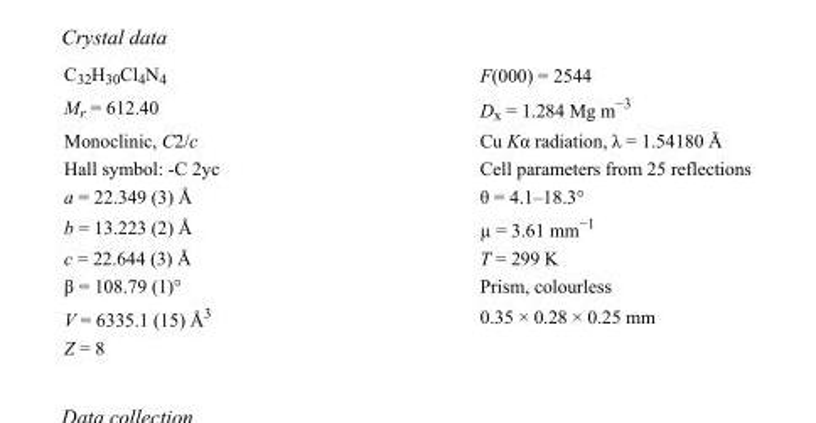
<table><tbody><tr><td>C<sub>32</sub>H<sub>30</sub>Cl<sub>4</sub>N<sub>4</sub></td><td>F(000) = 2544</td></tr><tr><td>M<sub>r</sub> = 612.40</td><td>D<sub>x</sub> = 1.284 Mg m<sup>−3</sup></td></tr><tr><td>Monoclinic, C2/c</td><td>Cu Kα radiation, λ = 1.54180 Å</td></tr><tr><td>Hall symbol: -C 2yc</td><td>Cell parameters from 25 reflections</td></tr><tr><td>a = 22.349 (3) Å</td><td>θ = 4.1–18.3°</td></tr><tr><td>b = 13.223 (2) Å</td><td>µ = 3.61 mm<sup>−1</sup></td></tr><tr><td>c = 22.644 (3) Å</td><td>T = 299 K</td></tr><tr><td>β = 108.79 (1)°</td><td>Prism, colourless</td></tr><tr><td>V = 6335.1 (15) Å<sup>3</sup></td><td>0.35 × 0.28 × 0.25 mm</td></tr><tr><td>Z = 8</td><td></td></tr></tbody></table>